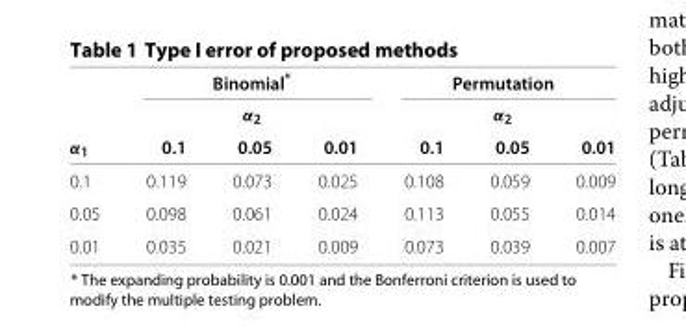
<table><thead><tr><td rowspan="3">α<sub>1</sub></td><td rowspan="2" colspan="3">Binomial* α<sub>2</sub></td><td rowspan="2" colspan="3">Permutation α<sub>2</sub></td></tr><tr></tr><tr><td>0.1</td><td>0.05</td><td>0.01</td><td>0.1</td><td>0.05</td><td>0.01</td></tr></thead><tbody><tr><td>0.1</td><td>0.119</td><td>0.073</td><td>0.025</td><td>0.108</td><td>0.059</td><td>0.009</td></tr><tr><td>0.05</td><td>0.098</td><td>0.061</td><td>0.024</td><td>0.113</td><td>0.055</td><td>0.014</td></tr><tr><td>0.01</td><td>0.035</td><td>0.021</td><td>0.009</td><td>0.073</td><td>0.039</td><td>0.007</td></tr></tbody></table>